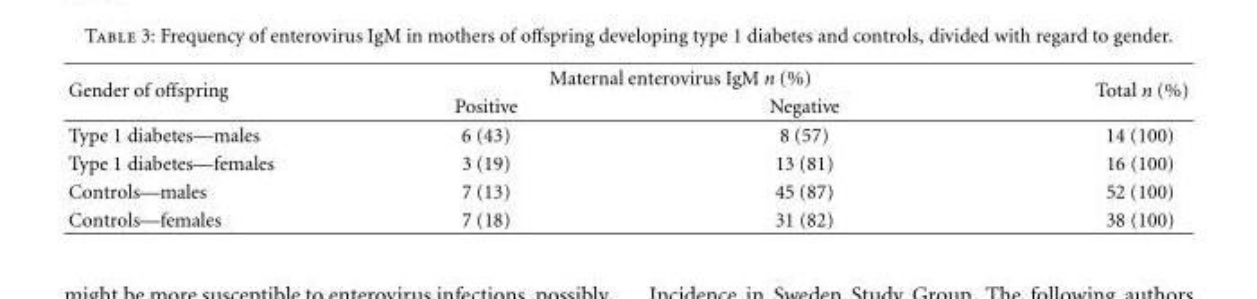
<table><thead><tr><td rowspan="2">Gender of offspring</td><td colspan="2">Maternal enterovirus IgM n (%)</td><td rowspan="2">Total n (%)</td></tr><tr><td>Positive</td><td>Negative</td></tr></thead><tbody><tr><td>Type 1 diabetes—males</td><td>6 (43)</td><td>8 (57)</td><td>14 (100)</td></tr><tr><td>Type 1 diabetes—females</td><td>3 (19)</td><td>13 (81)</td><td>16 (100)</td></tr><tr><td>Controls—males</td><td>7 (13)</td><td>45 (87)</td><td>52 (100)</td></tr><tr><td>Controls—females</td><td>7 (18)</td><td>31 (82)</td><td>38 (100)</td></tr></tbody></table>